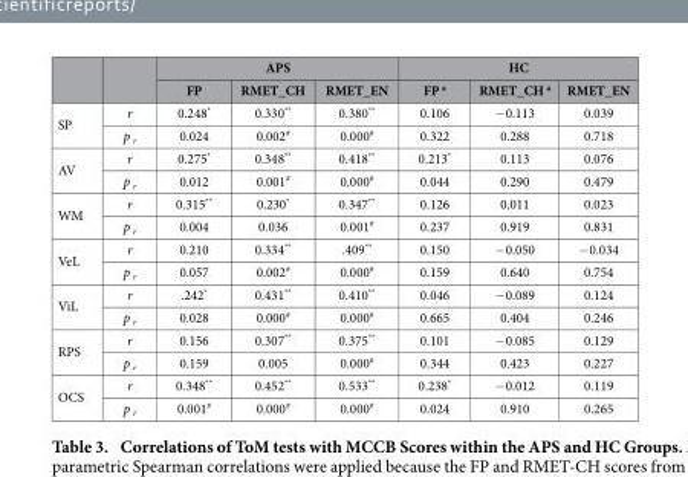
<table><thead><tr><td rowspan="2"></td><td rowspan="2"></td><td colspan="3">APS</td><td colspan="3">HC</td></tr><tr><td>FP</td><td>RMET_CH</td><td>RMET_EN</td><td>FP <sup>a</sup></td><td>RMET_CH <sup>a</sup></td><td>RMET_EN</td></tr></thead><tbody><tr><td rowspan="2">SP</td><td>r</td><td>0.248*</td><td>0.330**</td><td>0.380**</td><td>0.106</td><td>− 0.113</td><td>0.039</td></tr><tr><td>p <sub>r</sub></td><td>0.024</td><td>0.002<sup>#</sup></td><td>0.000<sup>#</sup></td><td>0.322</td><td>0.288</td><td>0.718</td></tr><tr><td rowspan="2">AV</td><td>r</td><td>0.275*</td><td>0.348**</td><td>0.418**</td><td>0.213*</td><td>0.113</td><td>0.076</td></tr><tr><td>p <sub>r</sub></td><td>0.012</td><td>0.001<sup>#</sup></td><td>0.000<sup>#</sup></td><td>0.044</td><td>0.290</td><td>0.479</td></tr><tr><td rowspan="2">WM</td><td>r</td><td>0.315**</td><td>0.230*</td><td>0.347**</td><td>0.126</td><td>0.011</td><td>0.023</td></tr><tr><td>p <sub>r</sub></td><td>0.004</td><td>0.036</td><td>0.001<sup>#</sup></td><td>0.237</td><td>0.919</td><td>0.831</td></tr><tr><td rowspan="2">VeL</td><td>r</td><td>0.210</td><td>0.334**</td><td>.409**</td><td>0.150</td><td>− 0.050</td><td>− 0.034</td></tr><tr><td>p <sub>r</sub></td><td>0.057</td><td>0.002<sup>#</sup></td><td>0.000<sup>#</sup></td><td>0.159</td><td>0.640</td><td>0.754</td></tr><tr><td rowspan="2">ViL</td><td>r</td><td>.242*</td><td>0.431**</td><td>0.410**</td><td>0.046</td><td>− 0.089</td><td>0.124</td></tr><tr><td>p <sub>r</sub></td><td>0.028</td><td>0.000<sup>#</sup></td><td>0.000<sup>#</sup></td><td>0.665</td><td>0.404</td><td>0.246</td></tr><tr><td rowspan="2">RPS</td><td>r</td><td>0.156</td><td>0.307**</td><td>0.375**</td><td>0.101</td><td>− 0.085</td><td>0.129</td></tr><tr><td>p <sub>r</sub></td><td>0.159</td><td>0.005</td><td>0.000<sup>#</sup></td><td>0.344</td><td>0.423</td><td>0.227</td></tr><tr><td rowspan="2">OCS</td><td>r</td><td>0.348**</td><td>0.452**</td><td>0.533**</td><td>0.238*</td><td>− 0.012</td><td>0.119</td></tr><tr><td>p <sub>r</sub></td><td>0.001<sup>#</sup></td><td>0.000<sup>#</sup></td><td>0.000<sup>#</sup></td><td>0.024</td><td>0.910</td><td>0.265</td></tr></tbody></table>